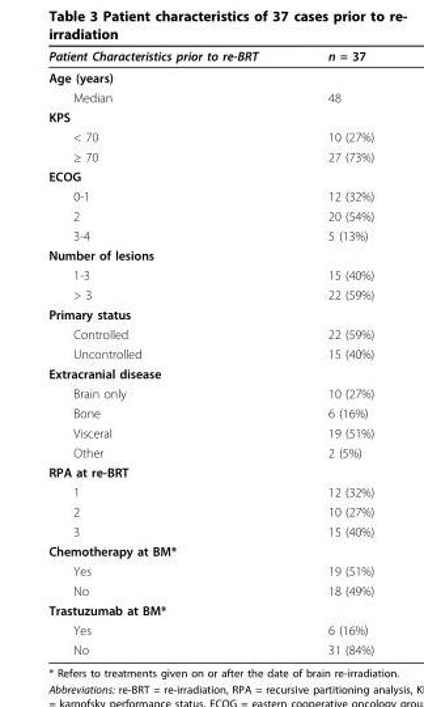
<table><thead><tr><td>Patient Characteristics prior to re-BRT</td><td>n = 37</td></tr></thead><tbody><tr><td colspan="2">Age (years)</td></tr><tr><td>Median</td><td>48</td></tr><tr><td colspan="2">KPS</td></tr><tr><td>&lt; 70</td><td>10 (27%)</td></tr><tr><td>≥ 70</td><td>27 (73%)</td></tr><tr><td colspan="2">ECOG</td></tr><tr><td>0-1</td><td>12 (32%)</td></tr><tr><td>2</td><td>20 (54%)</td></tr><tr><td>3-4</td><td>5 (13%)</td></tr><tr><td colspan="2">Number of lesions</td></tr><tr><td>1-3</td><td>15 (40%)</td></tr><tr><td>&gt; 3</td><td>22 (59%)</td></tr><tr><td colspan="2">Primary status</td></tr><tr><td>Controlled</td><td>22 (59%)</td></tr><tr><td>Uncontrolled</td><td>15 (40%)</td></tr><tr><td colspan="2">Extracranial disease</td></tr><tr><td>Brain only</td><td>10 (27%)</td></tr><tr><td>Bone</td><td>6 (16%)</td></tr><tr><td>Visceral</td><td>19 (51%)</td></tr><tr><td>Other</td><td>2 (5%)</td></tr><tr><td colspan="2">RPA at re-BRT</td></tr><tr><td>1</td><td>12 (32%)</td></tr><tr><td>2</td><td>10 (27%)</td></tr><tr><td>3</td><td>15 (40%)</td></tr><tr><td colspan="2">Chemotherapy at BM*</td></tr><tr><td>Yes</td><td>19 (51%)</td></tr><tr><td>No</td><td>18 (49%)</td></tr><tr><td colspan="2">Trastuzumab at BM*</td></tr><tr><td>Yes</td><td>6 (16%)</td></tr><tr><td>No</td><td>31 (84%)</td></tr></tbody></table>